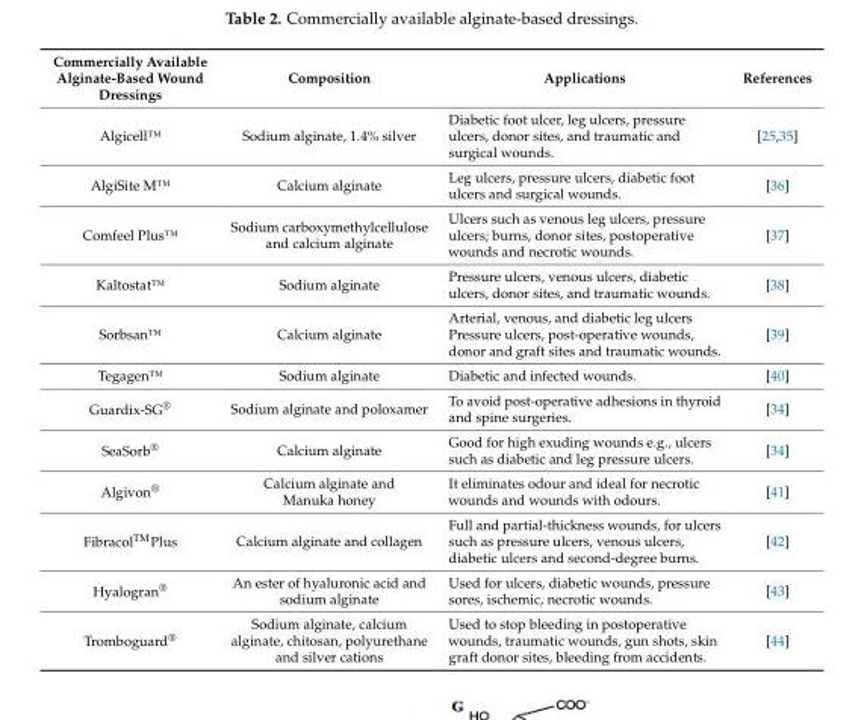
<table><thead><tr><td>Commercially Available Alginate-Based Wound Dressings</td><td>Composition</td><td>Applications</td><td>References</td></tr></thead><tbody><tr><td>Algicell™</td><td>Sodium alginate, 1.4% silver</td><td>Diabetic foot ulcer, leg ulcers, pressure ulcers, donor sites, and traumatic and surgical wounds.</td><td>[25,35]</td></tr><tr><td>AlgiSite M™</td><td>Calcium alginate</td><td>Leg ulcers, pressure ulcers, diabetic foot ulcers and surgical wounds.</td><td>[36]</td></tr><tr><td>Comfeel Plus™</td><td>Sodium carboxymethylcellulose and calcium alginate</td><td>Ulcers such as venous leg ulcers, pressure ulcers; burns, donor sites, postoperative wounds and necrotic wounds.</td><td>[37]</td></tr><tr><td>Kaltostat™</td><td>Sodium alginate</td><td>Pressure ulcers, venous ulcers, diabetic ulcers, donor sites, and traumatic wounds.</td><td>[38]</td></tr><tr><td>Sorbsan™</td><td>Calcium alginate</td><td>Arterial, venous, and diabetic leg ulcers Pressure ulcers, post-operative wounds, donor and graft sites and traumatic wounds.</td><td>[39]</td></tr><tr><td>Tegagen™</td><td>Sodium alginate</td><td>Diabetic and infected wounds.</td><td>[40]</td></tr><tr><td>Guardix-SG<sup>®</sup></td><td>Sodium alginate and poloxamer</td><td>To avoid post-operative adhesions in thyroid and spine surgeries.</td><td>[34]</td></tr><tr><td>SeaSorb<sup>®</sup></td><td>Calcium alginate</td><td>Good for high exuding wounds e.g., ulcers such as diabetic and leg pressure ulcers.</td><td>[34]</td></tr><tr><td>Algivon<sup>®</sup></td><td>Calcium alginate and Manuka honey</td><td>It eliminates odour and ideal for necrotic wounds and wounds with odours.</td><td>[41]</td></tr><tr><td>Fibracol<sup>TM</sup>Plus</td><td>Calcium alginate and collagen</td><td>Full and partial-thickness wounds, for ulcers such as pressure ulcers, venous ulcers, diabetic ulcers and second-degree burns.</td><td>[42]</td></tr><tr><td>Hyalogran<sup>®</sup></td><td>An ester of hyaluronic acid and sodium alginate</td><td>Used for ulcers, diabetic wounds, pressure sores, ischemic, necrotic wounds.</td><td>[43]</td></tr><tr><td>Tromboguard<sup>®</sup></td><td>Sodium alginate, calcium alginate, chitosan, polyurethane and silver cations</td><td>Used to stop bleeding in postoperative wounds, traumatic wounds, gun shots, skin graft donor sites, bleeding from accidents.</td><td>[44]</td></tr></tbody></table>